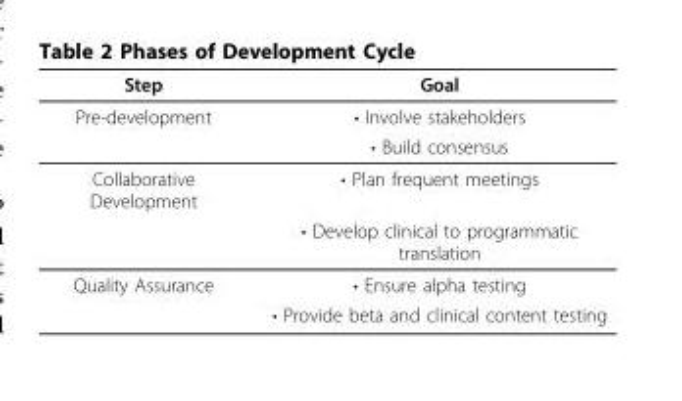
<table><thead><tr><td>Step</td><td>Goal</td></tr></thead><tbody><tr><td rowspan="2">Pre-development</td><td>• Involve stakeholders</td></tr><tr><td>• Build consensus</td></tr><tr><td rowspan="2">Collaborative Development</td><td>• Plan frequent meetings</td></tr><tr><td>• Develop clinical to programmatic translation</td></tr><tr><td rowspan="2">Quality Assurance</td><td>• Ensure alpha testing</td></tr><tr><td>• Provide beta and clinical content testing</td></tr></tbody></table>